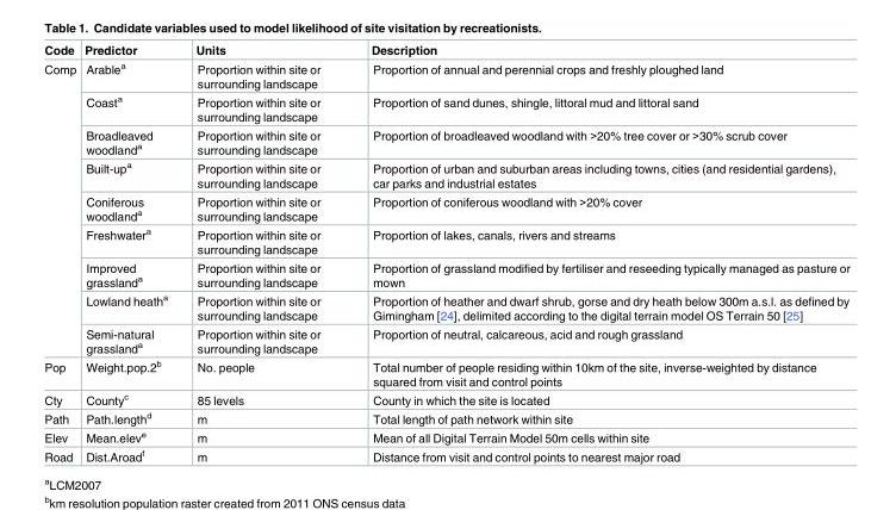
<table><thead><tr><td>Code</td><td>Predictor</td><td>Units</td><td>Description</td></tr></thead><tbody><tr><td rowspan="9">Comp</td><td>Arable<sup>a</sup></td><td>Proportion within site or surrounding landscape</td><td>Proportion of annual and perennial crops and freshly ploughed land</td></tr><tr><td>Coast<sup>a</sup></td><td>Proportion within site or surrounding landscape</td><td>Proportion of sand dunes, shingle, littoral mud and littoral sand</td></tr><tr><td>Broadleaved woodland<sup>a</sup></td><td>Proportion within site or surrounding landscape</td><td>Proportion of broadleaved woodland with &gt;20% tree cover or &gt;30% scrub cover</td></tr><tr><td>Built-up<sup>a</sup></td><td>Proportion within site or surrounding landscape</td><td>Proportion of urban and suburban areas including towns, cities (and residential gardens), car parks and industrial estates</td></tr><tr><td>Coniferous woodland<sup>a</sup></td><td>Proportion within site or surrounding landscape</td><td>Proportion of coniferous woodland with &gt;20% cover</td></tr><tr><td>Freshwater<sup>a</sup></td><td>Proportion within site or surrounding landscape</td><td>Proportion of lakes, canals, rivers and streams</td></tr><tr><td>Improved grassland<sup>a</sup></td><td>Proportion within site or surrounding landscape</td><td>Proportion of grassland modified by fertiliser and reseeding typically managed as pasture or mown</td></tr><tr><td>Lowland heath<sup>a</sup></td><td>Proportion within site or surrounding landscape</td><td>Proportion of heather and dwarf shrub, gorse and dry heath below 300m a.s.l. as defined by Gimingham [24], delimited according to the digital terrain model OS Terrain 50 [25]</td></tr><tr><td>Semi-natural grassland<sup>a</sup></td><td>Proportion within site or surrounding landscape</td><td>Proportion of neutral, calcareous, acid and rough grassland</td></tr><tr><td>Pop</td><td>Weight.pop.2<sup>b</sup></td><td>No. people</td><td>Total number of people residing within 10km of the site, inverse-weighted by distance squared from visit and control points</td></tr><tr><td>Cty</td><td>County<sup>c</sup></td><td>85 levels</td><td>County in which the site is located</td></tr><tr><td>Path</td><td>Path.length<sup>d</sup></td><td>m</td><td>Total length of path network within site</td></tr><tr><td>Elev</td><td>Mean.elev<sup>e</sup></td><td>m</td><td>Mean of all Digital Terrain Model 50m cells within site</td></tr><tr><td>Road</td><td>Dist.Aroad<sup>f</sup></td><td>m</td><td>Distance from visit and control points to nearest major road</td></tr></tbody></table>